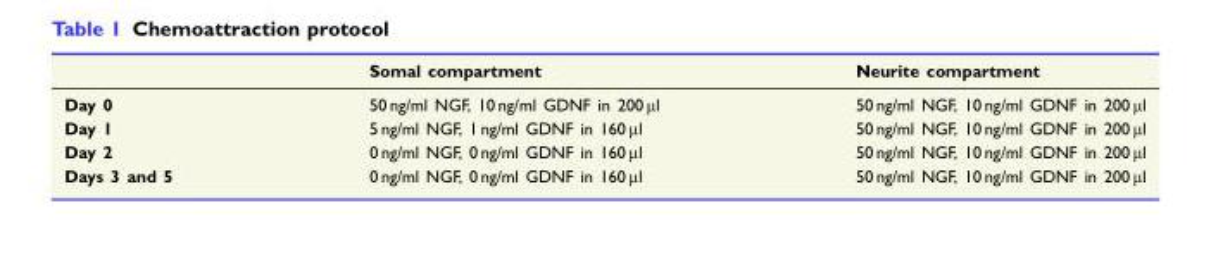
<table><thead><tr><td></td><td>Somal compartment</td><td>Neurite compartment</td></tr></thead><tbody><tr><td>Day 0</td><td>50 ng/ml NGF, 10 ng/ml GDNF in 200 µl</td><td>50 ng/ml NGF, 10 ng/ml GDNF in 200 µl</td></tr><tr><td>Day 1</td><td>5 ng/ml NGF, 1 ng/ml GDNF in 160 µl</td><td>50 ng/ml NGF, 10 ng/ml GDNF in 200 µl</td></tr><tr><td>Day 2</td><td>0 ng/ml NGF, 0 ng/ml GDNF in 160 µl</td><td>50 ng/ml NGF, 10 ng/ml GDNF in 200 µl</td></tr><tr><td>Days 3 and 5</td><td>0 ng/ml NGF, 0 ng/ml GDNF in 160 µl</td><td>50 ng/ml NGF, 10 ng/ml GDNF in 200 µl</td></tr></tbody></table>